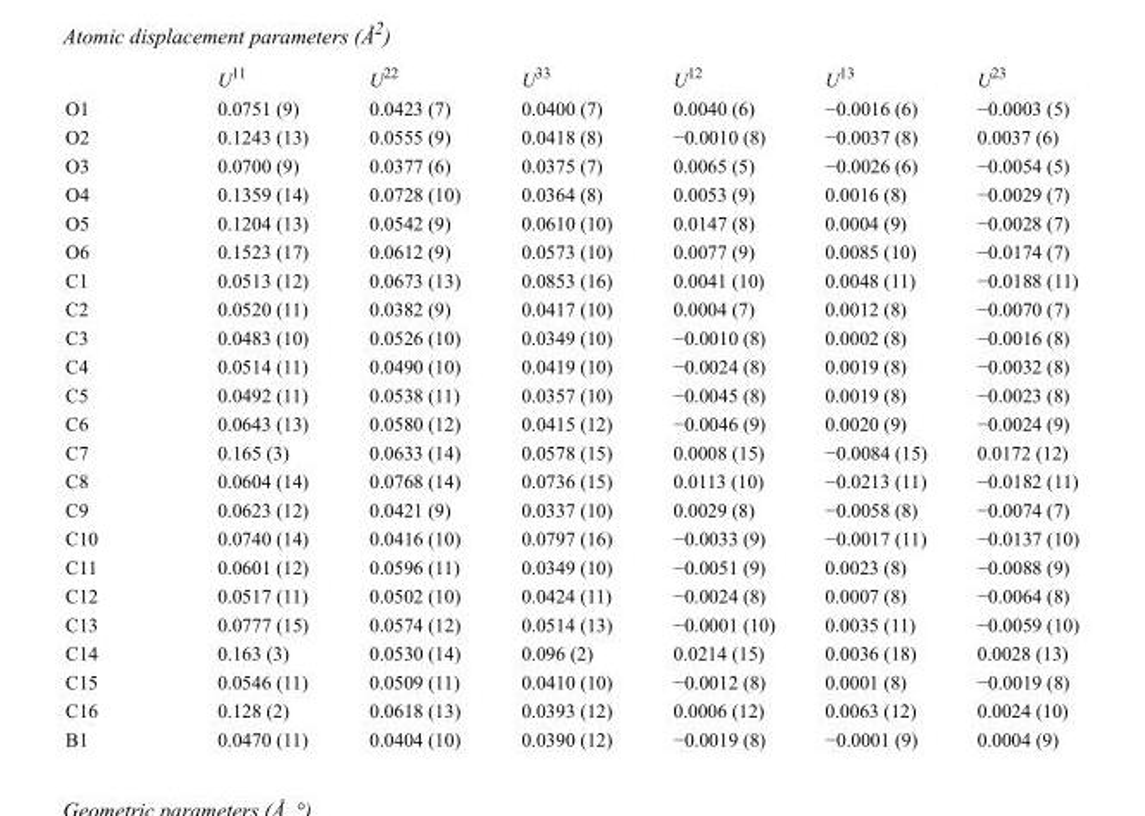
<table><thead><tr><td></td><td>U<sup>11</sup></td><td>U<sup>22</sup></td><td>U<sup>33</sup></td><td>U<sup>12</sup></td><td>U<sup>13</sup></td><td>U<sup>23</sup></td></tr></thead><tbody><tr><td>O1</td><td>0.0751 (9)</td><td>0.0423 (7)</td><td>0.0400 (7)</td><td>0.0040 (6)</td><td>−0.0016 (6)</td><td>−0.0003 (5)</td></tr><tr><td>O2</td><td>0.1243 (13)</td><td>0.0555 (9)</td><td>0.0418 (8)</td><td>−0.0010 (8)</td><td>−0.0037 (8)</td><td>0.0037 (6)</td></tr><tr><td>O3</td><td>0.0700 (9)</td><td>0.0377 (6)</td><td>0.0375 (7)</td><td>0.0065 (5)</td><td>−0.0026 (6)</td><td>−0.0054 (5)</td></tr><tr><td>O4</td><td>0.1359 (14)</td><td>0.0728 (10)</td><td>0.0364 (8)</td><td>0.0053 (9)</td><td>0.0016 (8)</td><td>−0.0029 (7)</td></tr><tr><td>O5</td><td>0.1204 (13)</td><td>0.0542 (9)</td><td>0.0610 (10)</td><td>0.0147 (8)</td><td>0.0004 (9)</td><td>−0.0028 (7)</td></tr><tr><td>O6</td><td>0.1523 (17)</td><td>0.0612 (9)</td><td>0.0573 (10)</td><td>0.0077 (9)</td><td>0.0085 (10)</td><td>−0.0174 (7)</td></tr><tr><td>C1</td><td>0.0513 (12)</td><td>0.0673 (13)</td><td>0.0853 (16)</td><td>0.0041 (10)</td><td>0.0048 (11)</td><td>−0.0188 (11)</td></tr><tr><td>C2</td><td>0.0520 (11)</td><td>0.0382 (9)</td><td>0.0417 (10)</td><td>0.0004 (7)</td><td>0.0012 (8)</td><td>−0.0070 (7)</td></tr><tr><td>C3</td><td>0.0483 (10)</td><td>0.0526 (10)</td><td>0.0349 (10)</td><td>−0.0010 (8)</td><td>0.0002 (8)</td><td>−0.0016 (8)</td></tr><tr><td>C4</td><td>0.0514 (11)</td><td>0.0490 (10)</td><td>0.0419 (10)</td><td>−0.0024 (8)</td><td>0.0019 (8)</td><td>−0.0032 (8)</td></tr><tr><td>C5</td><td>0.0492 (11)</td><td>0.0538 (11)</td><td>0.0357 (10)</td><td>−0.0045 (8)</td><td>0.0019 (8)</td><td>−0.0023 (8)</td></tr><tr><td>C6</td><td>0.0643 (13)</td><td>0.0580 (12)</td><td>0.0415 (12)</td><td>−0.0046 (9)</td><td>0.0020 (9)</td><td>−0.0024 (9)</td></tr><tr><td>C7</td><td>0.165 (3)</td><td>0.0633 (14)</td><td>0.0578 (15)</td><td>0.0008 (15)</td><td>−0.0084 (15)</td><td>0.0172 (12)</td></tr><tr><td>C8</td><td>0.0604 (14)</td><td>0.0768 (14)</td><td>0.0736 (15)</td><td>0.0113 (10)</td><td>−0.0213 (11)</td><td>−0.0182 (11)</td></tr><tr><td>C9</td><td>0.0623 (12)</td><td>0.0421 (9)</td><td>0.0337 (10)</td><td>0.0029 (8)</td><td>−0.0058 (8)</td><td>−0.0074 (7)</td></tr><tr><td>C10</td><td>0.0740 (14)</td><td>0.0416 (10)</td><td>0.0797 (16)</td><td>−0.0033 (9)</td><td>−0.0017 (11)</td><td>−0.0137 (10)</td></tr><tr><td>C11</td><td>0.0601 (12)</td><td>0.0596 (11)</td><td>0.0349 (10)</td><td>−0.0051 (9)</td><td>0.0023 (8)</td><td>−0.0088 (9)</td></tr><tr><td>C12</td><td>0.0517 (11)</td><td>0.0502 (10)</td><td>0.0424 (11)</td><td>−0.0024 (8)</td><td>0.0007 (8)</td><td>−0.0064 (8)</td></tr><tr><td>C13</td><td>0.0777 (15)</td><td>0.0574 (12)</td><td>0.0514 (13)</td><td>−0.0001 (10)</td><td>0.0035 (11)</td><td>−0.0059 (10)</td></tr><tr><td>C14</td><td>0.163 (3)</td><td>0.0530 (14)</td><td>0.096 (2)</td><td>0.0214 (15)</td><td>0.0036 (18)</td><td>0.0028 (13)</td></tr><tr><td>C15</td><td>0.0546 (11)</td><td>0.0509 (11)</td><td>0.0410 (10)</td><td>−0.0012 (8)</td><td>0.0001 (8)</td><td>−0.0019 (8)</td></tr><tr><td>C16</td><td>0.128 (2)</td><td>0.0618 (13)</td><td>0.0393 (12)</td><td>0.0006 (12)</td><td>0.0063 (12)</td><td>0.0024 (10)</td></tr><tr><td>B1</td><td>0.0470 (11)</td><td>0.0404 (10)</td><td>0.0390 (12)</td><td>−0.0019 (8)</td><td>−0.0001 (9)</td><td>0.0004 (9)</td></tr></tbody></table>